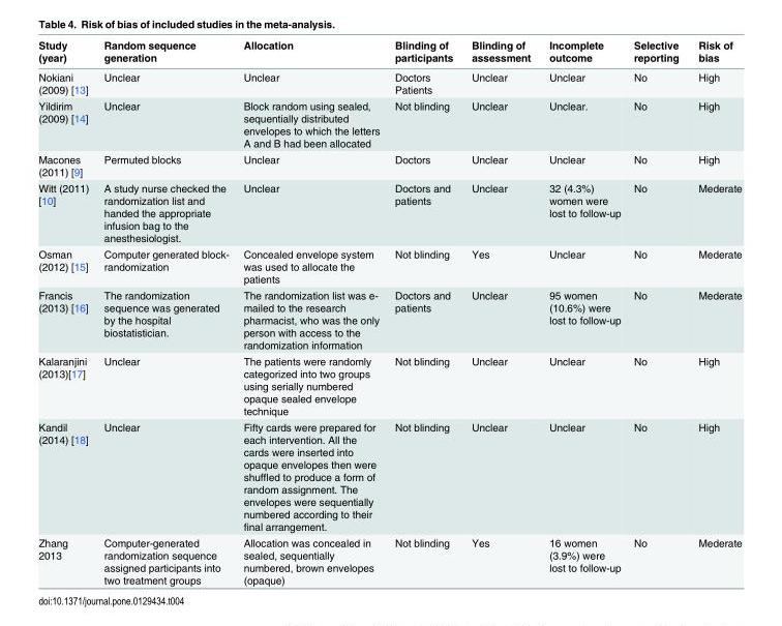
<table><thead><tr><td>Study (year)</td><td>Random sequence generation</td><td>Allocation</td><td>Blinding of participants</td><td>Blinding of assessment</td><td>Incomplete outcome</td><td>Selective reporting</td><td>Risk of bias</td></tr></thead><tbody><tr><td>Nokiani (2009) [13]</td><td>Unclear</td><td>Unclear</td><td>Doctors Patients</td><td>Unclear</td><td>Unclear</td><td>No</td><td>High</td></tr><tr><td>Yildirim (2009) [14]</td><td>Unclear</td><td>Block random using sealed, sequentially distributed envelopes to which the letters A and B had been allocated</td><td>Not blinding</td><td>Unclear</td><td>Unclear.</td><td>No</td><td>High</td></tr><tr><td>Macones (2011) [9]</td><td>Permuted blocks</td><td>Unclear</td><td>Doctors</td><td>Unclear</td><td>Unclear</td><td>No</td><td>High</td></tr><tr><td>Witt (2011) [10]</td><td>A study nurse checked the randomization list and handed the appropriate infusion bag to the anesthesiologist.</td><td>Unclear</td><td>Doctors and patients</td><td>Unclear</td><td>32 (4.3%) women were lost to follow-up</td><td>No</td><td>Mederate</td></tr><tr><td>Osman (2012) [15]</td><td>Computer generated block- randomization</td><td>Concealed envelope system was used to allocate the patients</td><td>Not blinding</td><td>Yes</td><td>Unclear</td><td>No</td><td>Mederate</td></tr><tr><td>Francis (2013) [16]</td><td>The randomization sequence was generated by the hospital biostatistician.</td><td>The randomization list was e- mailed to the research pharmacist, who was the only person with access to the randomization information</td><td>Doctors and patients</td><td>Unclear</td><td>95 women (10.6%) were lost to follow-up</td><td>No</td><td>Mederate</td></tr><tr><td>Kalaranjini (2013)[17]</td><td>Unclear</td><td>The patients were randomly categorized into two groups using serially numbered opaque sealed envelope technique</td><td>Not blinding</td><td>Unclear</td><td>Unclear</td><td>No</td><td>High</td></tr><tr><td>Kandil (2014) [18]</td><td>Unclear</td><td>Fifty cards were prepared for each intervention. All the cards were inserted into opaque envelopes then were shuffled to produce a form of random assignment. The envelopes were sequentially numbered according to their final arrangement.</td><td>Not blinding</td><td>Unclear</td><td>Unclear</td><td>No</td><td>High</td></tr><tr><td>Zhang 2013</td><td>Computer-generated randomization sequence assigned participants into two treatment groups</td><td>Allocation was concealed in sealed, sequentially numbered, brown envelopes (opaque)</td><td>Not blinding</td><td>Yes</td><td>16 women (3.9%) were lost to follow-up</td><td>No</td><td>Mederate</td></tr></tbody></table>